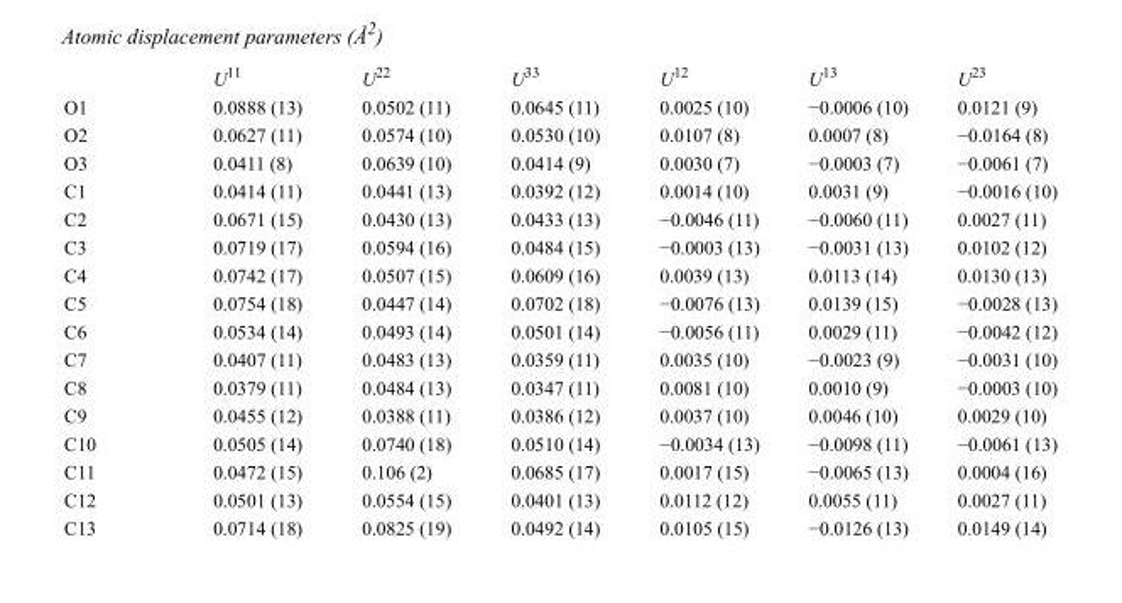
<table><thead><tr><td></td><td>U<sup>11</sup></td><td>U<sup>22</sup></td><td>U<sup>33</sup></td><td>U<sup>12</sup></td><td>U<sup>13</sup></td><td>U<sup>23</sup></td></tr></thead><tbody><tr><td>O1</td><td>0.0888 (13)</td><td>0.0502 (11)</td><td>0.0645 (11)</td><td>0.0025 (10)</td><td>−0.0006 (10)</td><td>0.0121 (9)</td></tr><tr><td>O2</td><td>0.0627 (11)</td><td>0.0574 (10)</td><td>0.0530 (10)</td><td>0.0107 (8)</td><td>0.0007 (8)</td><td>−0.0164 (8)</td></tr><tr><td>O3</td><td>0.0411 (8)</td><td>0.0639 (10)</td><td>0.0414 (9)</td><td>0.0030 (7)</td><td>−0.0003 (7)</td><td>−0.0061 (7)</td></tr><tr><td>C1</td><td>0.0414 (11)</td><td>0.0441 (13)</td><td>0.0392 (12)</td><td>0.0014 (10)</td><td>0.0031 (9)</td><td>−0.0016 (10)</td></tr><tr><td>C2</td><td>0.0671 (15)</td><td>0.0430 (13)</td><td>0.0433 (13)</td><td>−0.0046 (11)</td><td>−0.0060 (11)</td><td>0.0027 (11)</td></tr><tr><td>C3</td><td>0.0719 (17)</td><td>0.0594 (16)</td><td>0.0484 (15)</td><td>−0.0003 (13)</td><td>−0.0031 (13)</td><td>0.0102 (12)</td></tr><tr><td>C4</td><td>0.0742 (17)</td><td>0.0507 (15)</td><td>0.0609 (16)</td><td>0.0039 (13)</td><td>0.0113 (14)</td><td>0.0130 (13)</td></tr><tr><td>C5</td><td>0.0754 (18)</td><td>0.0447 (14)</td><td>0.0702 (18)</td><td>−0.0076 (13)</td><td>0.0139 (15)</td><td>−0.0028 (13)</td></tr><tr><td>C6</td><td>0.0534 (14)</td><td>0.0493 (14)</td><td>0.0501 (14)</td><td>−0.0056 (11)</td><td>0.0029 (11)</td><td>−0.0042 (12)</td></tr><tr><td>C7</td><td>0.0407 (11)</td><td>0.0483 (13)</td><td>0.0359 (11)</td><td>0.0035 (10)</td><td>−0.0023 (9)</td><td>−0.0031 (10)</td></tr><tr><td>C8</td><td>0.0379 (11)</td><td>0.0484 (13)</td><td>0.0347 (11)</td><td>0.0081 (10)</td><td>0.0010 (9)</td><td>−0.0003 (10)</td></tr><tr><td>C9</td><td>0.0455 (12)</td><td>0.0388 (11)</td><td>0.0386 (12)</td><td>0.0037 (10)</td><td>0.0046 (10)</td><td>0.0029 (10)</td></tr><tr><td>C10</td><td>0.0505 (14)</td><td>0.0740 (18)</td><td>0.0510 (14)</td><td>−0.0034 (13)</td><td>−0.0098 (11)</td><td>−0.0061 (13)</td></tr><tr><td>C11</td><td>0.0472 (15)</td><td>0.106 (2)</td><td>0.0685 (17)</td><td>0.0017 (15)</td><td>−0.0065 (13)</td><td>0.0004 (16)</td></tr><tr><td>C12</td><td>0.0501 (13)</td><td>0.0554 (15)</td><td>0.0401 (13)</td><td>0.0112 (12)</td><td>0.0055 (11)</td><td>0.0027 (11)</td></tr><tr><td>C13</td><td>0.0714 (18)</td><td>0.0825 (19)</td><td>0.0492 (14)</td><td>0.0105 (15)</td><td>−0.0126 (13)</td><td>0.0149 (14)</td></tr></tbody></table>